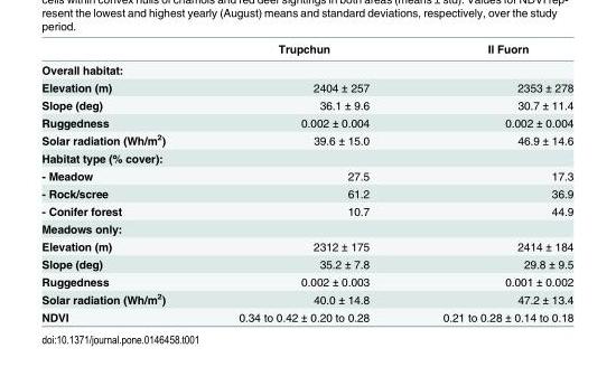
<table><thead><tr><td></td><td>Trupchun</td><td>Il Fuorn</td></tr></thead><tbody><tr><td colspan="3">Overall habitat:</td></tr><tr><td>Elevation (m)</td><td>2404 ± 257</td><td>2353 ± 278</td></tr><tr><td>Slope (deg)</td><td>36.1 ± 9.6</td><td>30.7 ± 11.4</td></tr><tr><td>Ruggedness</td><td>0.002 ± 0.004</td><td>0.002 ± 0.004</td></tr><tr><td>Solar radiation (Wh/m<sup>2</sup>)</td><td>39.6 ± 15.0</td><td>46.9 ± 14.6</td></tr><tr><td colspan="3">Habitat type (% cover):</td></tr><tr><td>- Meadow</td><td>27.5</td><td>17.3</td></tr><tr><td>- Rock/scree</td><td>61.2</td><td>36.9</td></tr><tr><td>- Conifer forest</td><td>10.7</td><td>44.9</td></tr><tr><td colspan="3">Meadows only:</td></tr><tr><td>Elevation (m)</td><td>2312 ± 175</td><td>2414 ± 184</td></tr><tr><td>Slope (deg)</td><td>35.2 ± 7.8</td><td>29.8 ± 9.5</td></tr><tr><td>Ruggedness</td><td>0.002 ± 0.003</td><td>0.001 ± 0.002</td></tr><tr><td>Solar radiation (Wh/m<sup>2</sup>)</td><td>40.0 ± 14.8</td><td>47.2 ± 13.4</td></tr><tr><td>NDVI</td><td>0.34 to 0.42 ± 0.20 to 0.28</td><td>0.21 to 0.28 ± 0.14 to 0.18</td></tr></tbody></table>